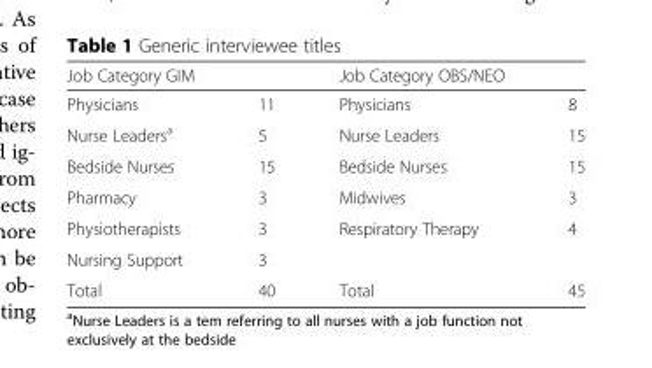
<table><thead><tr><td>Job Category GIM</td><td></td><td>Job Category OBS/NEO</td><td></td></tr></thead><tbody><tr><td>Physicians</td><td>11</td><td>Physicians</td><td>8</td></tr><tr><td>Nurse Leaders<sup>a</sup></td><td>5</td><td>Nurse Leaders</td><td>15</td></tr><tr><td>Bedside Nurses</td><td>15</td><td>Bedside Nurses</td><td>15</td></tr><tr><td>Pharmacy</td><td>3</td><td>Midwives</td><td>3</td></tr><tr><td>Physiotherapists</td><td>3</td><td>Respiratory Therapy</td><td>4</td></tr><tr><td>Nursing Support</td><td>3</td><td></td><td></td></tr><tr><td>Total</td><td>40</td><td>Total</td><td>45</td></tr></tbody></table>